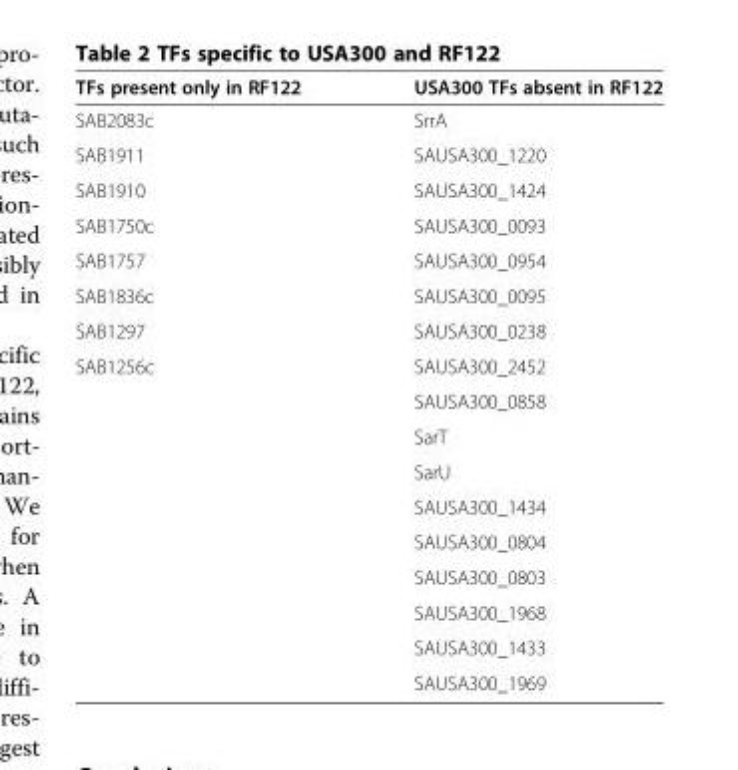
<table><thead><tr><td>TFs present only in RF122</td><td>USA300 TFs absent in RF122</td></tr></thead><tbody><tr><td>SAB2083c</td><td>SrrA</td></tr><tr><td>SAB1911</td><td>SAUSA300_1220</td></tr><tr><td>SAB1910</td><td>SAUSA300_1424</td></tr><tr><td>SAB1750c</td><td>SAUSA300_0093</td></tr><tr><td>SAB1757</td><td>SAUSA300_0954</td></tr><tr><td>SAB1836c</td><td>SAUSA300_0095</td></tr><tr><td>SAB1297</td><td>SAUSA300_0238</td></tr><tr><td rowspan="10">SAB1256c</td><td>SAUSA300_2452</td></tr><tr><td>SAUSA300_0858</td></tr><tr><td>SarT</td></tr><tr><td>SarU</td></tr><tr><td>SAUSA300_1434</td></tr><tr><td>SAUSA300_0804</td></tr><tr><td>SAUSA300_0803</td></tr><tr><td>SAUSA300_1968</td></tr><tr><td>SAUSA300_1433</td></tr><tr><td>SAUSA300_1969</td></tr></tbody></table>